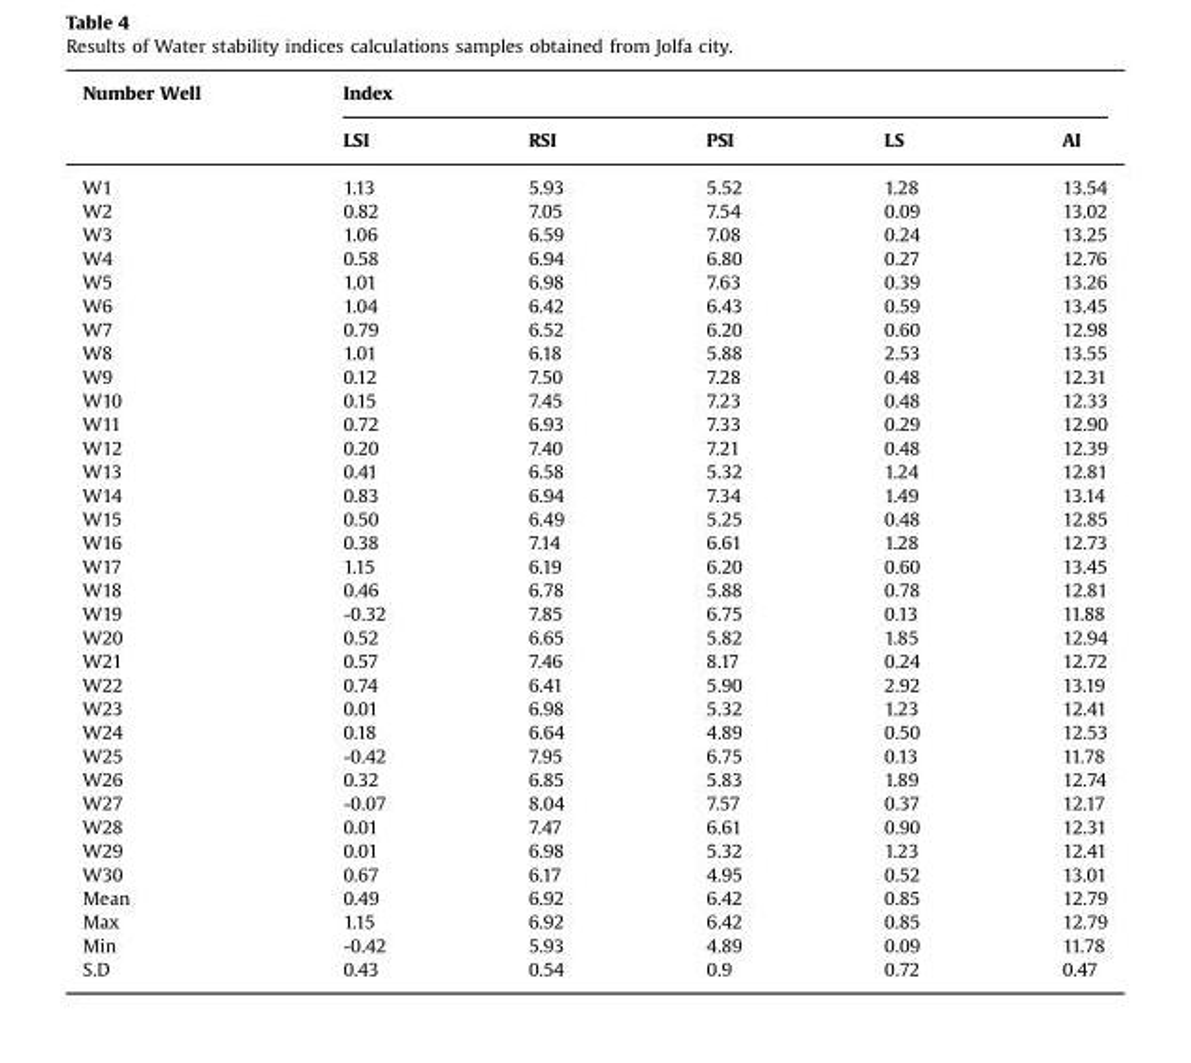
<table><thead><tr><td rowspan="2">Number Well</td><td colspan="5">Index</td></tr><tr><td>LSI</td><td>RSI</td><td>PSI</td><td>LS</td><td>AI</td></tr></thead><tbody><tr><td>W1</td><td>1.13</td><td>5.93</td><td>5.52</td><td>1.28</td><td>13.54</td></tr><tr><td>W2</td><td>0.82</td><td>7.05</td><td>7.54</td><td>0.09</td><td>13.02</td></tr><tr><td>W3</td><td>1.06</td><td>6.59</td><td>7.08</td><td>0.24</td><td>13.25</td></tr><tr><td>W4</td><td>0.58</td><td>6.94</td><td>6.80</td><td>0.27</td><td>12.76</td></tr><tr><td>W5</td><td>1.01</td><td>6.98</td><td>7.63</td><td>0.39</td><td>13.26</td></tr><tr><td>W6</td><td>1.04</td><td>6.42</td><td>6.43</td><td>0.59</td><td>13.45</td></tr><tr><td>W7</td><td>0.79</td><td>6.52</td><td>6.20</td><td>0.60</td><td>12.98</td></tr><tr><td>W8</td><td>1.01</td><td>6.18</td><td>5.88</td><td>2.53</td><td>13.55</td></tr><tr><td>W9</td><td>0.12</td><td>7.50</td><td>7.28</td><td>0.48</td><td>12.31</td></tr><tr><td>W10</td><td>0.15</td><td>7.45</td><td>7.23</td><td>0.48</td><td>12.33</td></tr><tr><td>W11</td><td>0.72</td><td>6.93</td><td>7.33</td><td>0.29</td><td>12.90</td></tr><tr><td>W12</td><td>0.20</td><td>7.40</td><td>7.21</td><td>0.48</td><td>12.39</td></tr><tr><td>W13</td><td>0.41</td><td>6.58</td><td>5.32</td><td>1.24</td><td>12.81</td></tr><tr><td>W14</td><td>0.83</td><td>6.94</td><td>7.34</td><td>1.49</td><td>13.14</td></tr><tr><td>W15</td><td>0.50</td><td>6.49</td><td>5.25</td><td>0.48</td><td>12.85</td></tr><tr><td>W16</td><td>0.38</td><td>7.14</td><td>6.61</td><td>1.28</td><td>12.73</td></tr><tr><td>W17</td><td>1.15</td><td>6.19</td><td>6.20</td><td>0.60</td><td>13.45</td></tr><tr><td>W18</td><td>0.46</td><td>6.78</td><td>5.88</td><td>0.78</td><td>12.81</td></tr><tr><td>W19</td><td>-0.32</td><td>7.85</td><td>6.75</td><td>0.13</td><td>11.88</td></tr><tr><td>W20</td><td>0.52</td><td>6.65</td><td>5.82</td><td>1.85</td><td>12.94</td></tr><tr><td>W21</td><td>0.57</td><td>7.46</td><td>8.17</td><td>0.24</td><td>12.72</td></tr><tr><td>W22</td><td>0.74</td><td>6.41</td><td>5.90</td><td>2.92</td><td>13.19</td></tr><tr><td>W23</td><td>0.01</td><td>6.98</td><td>5.32</td><td>1.23</td><td>12.41</td></tr><tr><td>W24</td><td>0.18</td><td>6.64</td><td>4.89</td><td>0.50</td><td>12.53</td></tr><tr><td>W25</td><td>-0.42</td><td>7.95</td><td>6.75</td><td>0.13</td><td>11.78</td></tr><tr><td>W26</td><td>0.32</td><td>6.85</td><td>5.83</td><td>1.89</td><td>12.74</td></tr><tr><td>W27</td><td>-0.07</td><td>8.04</td><td>7.57</td><td>0.37</td><td>12.17</td></tr><tr><td>W28</td><td>0.01</td><td>7.47</td><td>6.61</td><td>0.90</td><td>12.31</td></tr><tr><td>W29</td><td>0.01</td><td>6.98</td><td>5.32</td><td>1.23</td><td>12.41</td></tr><tr><td>W30</td><td>0.67</td><td>6.17</td><td>4.95</td><td>0.52</td><td>13.01</td></tr><tr><td>Mean</td><td>0.49</td><td>6.92</td><td>6.42</td><td>0.85</td><td>12.79</td></tr><tr><td>Max</td><td>1.15</td><td>6.92</td><td>6.42</td><td>0.85</td><td>12.79</td></tr><tr><td>Min</td><td>-0.42</td><td>5.93</td><td>4.89</td><td>0.09</td><td>11.78</td></tr><tr><td>S.D</td><td>0.43</td><td>0.54</td><td>0.9</td><td>0.72</td><td>0.47</td></tr></tbody></table>